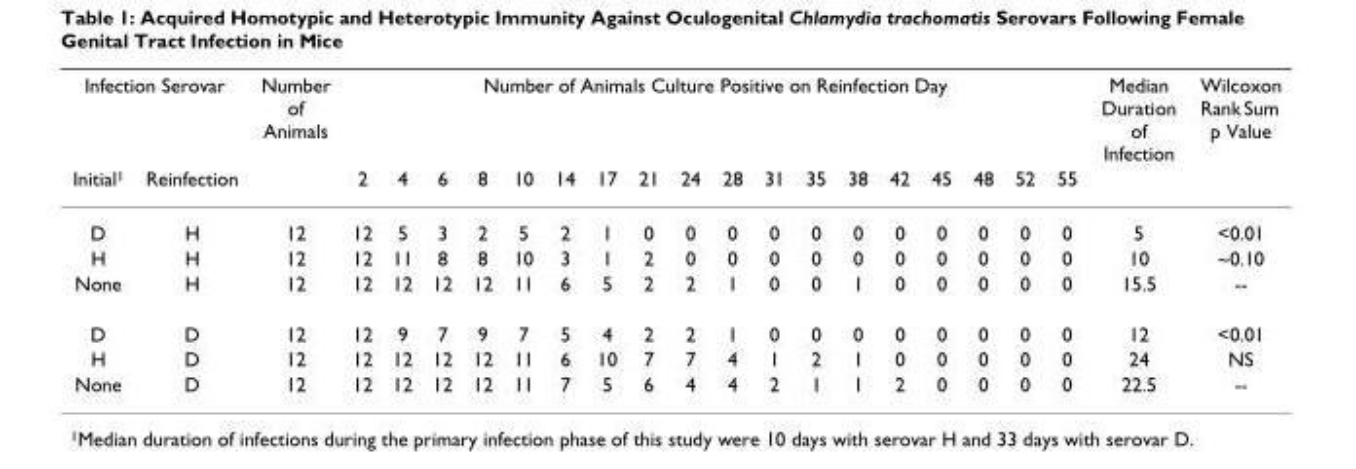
<table><thead><tr><td colspan="2">Infection Serovar</td><td rowspan="2">Number of Animals</td><td colspan="18">Number of Animals Culture Positive on Reinfection Day</td><td rowspan="2">Median Duration of Infection</td><td rowspan="2">Wilcoxon Rank Sum p Value</td></tr><tr><td>Initial<sup>1</sup></td><td>Reinfection</td><td>2</td><td>4</td><td>6</td><td>8</td><td>10</td><td>14</td><td>17</td><td>21</td><td>24</td><td>28</td><td>31</td><td>35</td><td>38</td><td>42</td><td>45</td><td>48</td><td>52</td><td>55</td></tr></thead><tbody><tr><td>D</td><td>H</td><td>12</td><td>12</td><td>5</td><td>3</td><td>2</td><td>5</td><td>2</td><td>1</td><td>0</td><td>0</td><td>0</td><td>0</td><td>0</td><td>0</td><td>0</td><td>0</td><td>0</td><td>0</td><td>0</td><td>5</td><td>&lt;0.01</td></tr><tr><td>H</td><td>H</td><td>12</td><td>12</td><td>11</td><td>8</td><td>8</td><td>10</td><td>3</td><td>1</td><td>2</td><td>0</td><td>0</td><td>0</td><td>0</td><td>0</td><td>0</td><td>0</td><td>0</td><td>0</td><td>0</td><td>10</td><td>~0.10</td></tr><tr><td>None</td><td>H</td><td>12</td><td>12</td><td>12</td><td>12</td><td>12</td><td>11</td><td>6</td><td>5</td><td>2</td><td>2</td><td>1</td><td>0</td><td>0</td><td>1</td><td>0</td><td>0</td><td>0</td><td>0</td><td>0</td><td>15.5</td><td>--</td></tr><tr><td>D</td><td>D</td><td>12</td><td>12</td><td>9</td><td>7</td><td>9</td><td>7</td><td>5</td><td>4</td><td>2</td><td>2</td><td>1</td><td>0</td><td>0</td><td>0</td><td>0</td><td>0</td><td>0</td><td>0</td><td>0</td><td>12</td><td>&lt;0.01</td></tr><tr><td>H</td><td>D</td><td>12</td><td>12</td><td>12</td><td>12</td><td>12</td><td>11</td><td>6</td><td>10</td><td>7</td><td>7</td><td>4</td><td>1</td><td>2</td><td>1</td><td>0</td><td>0</td><td>0</td><td>0</td><td>0</td><td>24</td><td>NS</td></tr><tr><td>None</td><td>D</td><td>12</td><td>12</td><td>12</td><td>12</td><td>12</td><td>11</td><td>7</td><td>5</td><td>6</td><td>4</td><td>4</td><td>2</td><td>1</td><td>1</td><td>2</td><td>0</td><td>0</td><td>0</td><td>0</td><td>22.5</td><td>--</td></tr></tbody></table>